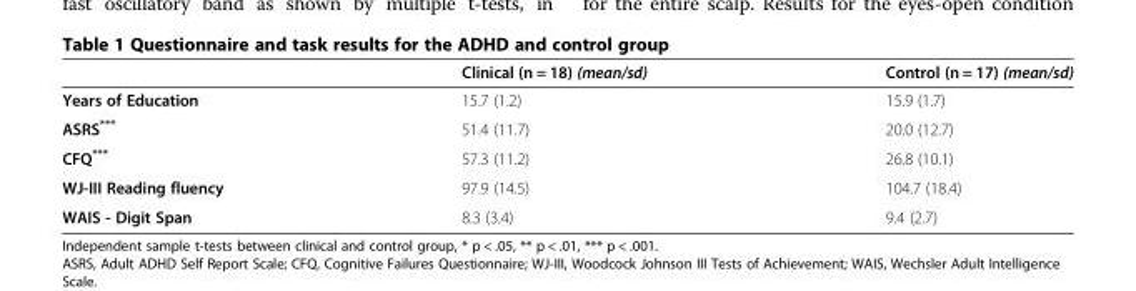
<table><thead><tr><td></td><td>Clinical (n = 18) (mean/sd)</td><td>Control (n = 17) (mean/sd)</td></tr></thead><tbody><tr><td>Years of Education</td><td>15.7 (1.2)</td><td>15.9 (1.7)</td></tr><tr><td>ASRS***</td><td>51.4 (11.7)</td><td>20.0 (12.7)</td></tr><tr><td>CFQ***</td><td>57.3 (11.2)</td><td>26.8 (10.1)</td></tr><tr><td>WJ-III Reading fluency</td><td>97.9 (14.5)</td><td>104.7 (18.4)</td></tr><tr><td>WAIS - Digit Span</td><td>8.3 (3.4)</td><td>9.4 (2.7)</td></tr></tbody></table>